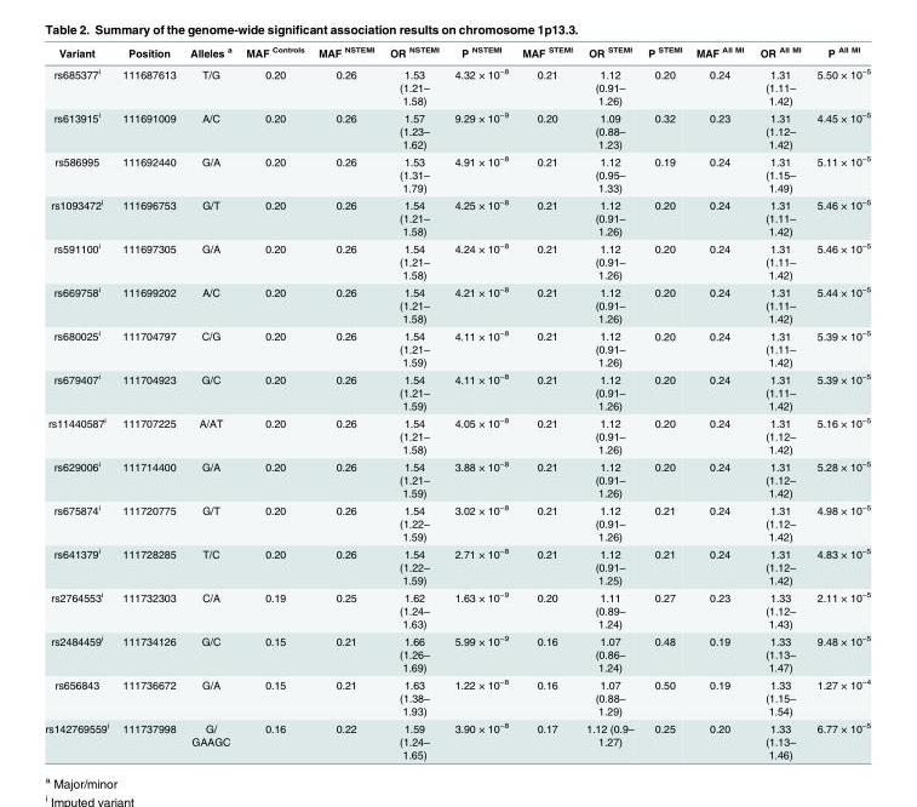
<table><thead><tr><td>Variant</td><td>Position</td><td>Alleles <sup>a</sup></td><td>MAF <sup>Controls</sup></td><td>MAF <sup>NSTEMI</sup></td><td>OR <sup>NSTEMI</sup></td><td>P <sup>NSTEMI</sup></td><td>MAF <sup>STEMI</sup></td><td>OR <sup>STEMI</sup></td><td>P <sup>STEMI</sup></td><td>MAF <sup>All MI</sup></td><td>OR <sup>All MI</sup></td><td>P <sup>All MI</sup></td></tr></thead><tbody><tr><td>rs685377<sup>i</sup></td><td>111687613</td><td>T/G</td><td>0.20</td><td>0.26</td><td>1.53 (1.21– 1.58)</td><td>4.32 × 10<sup>−8</sup></td><td>0.21</td><td>1.12 (0.91– 1.26)</td><td>0.20</td><td>0.24</td><td>1.31 (1.11– 1.42)</td><td>5.50 × 10<sup>−5</sup></td></tr><tr><td>rs613915<sup>i</sup></td><td>111691009</td><td>A/C</td><td>0.20</td><td>0.26</td><td>1.57 (1.23– 1.62)</td><td>9.29 × 10<sup>−9</sup></td><td>0.20</td><td>1.09 (0.88– 1.23)</td><td>0.32</td><td>0.23</td><td>1.31 (1.12– 1.42)</td><td>4.45 × 10<sup>−5</sup></td></tr><tr><td>rs586995</td><td>111692440</td><td>G/A</td><td>0.20</td><td>0.26</td><td>1.53 (1.31– 1.79)</td><td>4.91 × 10<sup>−8</sup></td><td>0.21</td><td>1.12 (0.95– 1.33)</td><td>0.19</td><td>0.24</td><td>1.31 (1.15– 1.49)</td><td>5.11 × 10<sup>−5</sup></td></tr><tr><td>rs1093472<sup>i</sup></td><td>111696753</td><td>G/T</td><td>0.20</td><td>0.26</td><td>1.54 (1.21– 1.58)</td><td>4.25 × 10<sup>−8</sup></td><td>0.21</td><td>1.12 (0.91– 1.26)</td><td>0.20</td><td>0.24</td><td>1.31 (1.11– 1.42)</td><td>5.46 × 10<sup>−5</sup></td></tr><tr><td>rs591100<sup>i</sup></td><td>111697305</td><td>G/A</td><td>0.20</td><td>0.26</td><td>1.54 (1.21– 1.58)</td><td>4.24 × 10<sup>−8</sup></td><td>0.21</td><td>1.12 (0.91– 1.26)</td><td>0.20</td><td>0.24</td><td>1.31 (1.11– 1.42)</td><td>5.46 × 10<sup>−5</sup></td></tr><tr><td>rs669758<sup>i</sup></td><td>111699202</td><td>A/C</td><td>0.20</td><td>0.26</td><td>1.54 (1.21– 1.58)</td><td>4.21 × 10<sup>−8</sup></td><td>0.21</td><td>1.12 (0.91– 1.26)</td><td>0.20</td><td>0.24</td><td>1.31 (1.11– 1.42)</td><td>5.44 × 10<sup>−5</sup></td></tr><tr><td>rs680025<sup>i</sup></td><td>111704797</td><td>C/G</td><td>0.20</td><td>0.26</td><td>1.54 (1.21– 1.59)</td><td>4.11 × 10<sup>−8</sup></td><td>0.21</td><td>1.12 (0.91– 1.26)</td><td>0.20</td><td>0.24</td><td>1.31 (1.11– 1.42)</td><td>5.39 × 10<sup>−5</sup></td></tr><tr><td>rs679407<sup>i</sup></td><td>111704923</td><td>G/C</td><td>0.20</td><td>0.26</td><td>1.54 (1.21– 1.59)</td><td>4.11 × 10<sup>−8</sup></td><td>0.21</td><td>1.12 (0.91– 1.26)</td><td>0.20</td><td>0.24</td><td>1.31 (1.11– 1.42)</td><td>5.39 × 10<sup>−5</sup></td></tr><tr><td>rs11440587<sup>i</sup></td><td>111707225</td><td>A/AT</td><td>0.20</td><td>0.26</td><td>1.54 (1.21– 1.58)</td><td>4.05 × 10<sup>−8</sup></td><td>0.21</td><td>1.12 (0.91– 1.26)</td><td>0.20</td><td>0.24</td><td>1.31 (1.12– 1.42)</td><td>5.16 × 10<sup>−5</sup></td></tr><tr><td>rs629006<sup>i</sup></td><td>111714400</td><td>G/A</td><td>0.20</td><td>0.26</td><td>1.54 (1.21– 1.59)</td><td>3.88 × 10<sup>−8</sup></td><td>0.21</td><td>1.12 (0.91– 1.26)</td><td>0.20</td><td>0.24</td><td>1.31 (1.12– 1.42)</td><td>5.28 × 10<sup>−5</sup></td></tr><tr><td>rs675874<sup>i</sup></td><td>111720775</td><td>G/T</td><td>0.20</td><td>0.26</td><td>1.54 (1.22– 1.59)</td><td>3.02 × 10<sup>−8</sup></td><td>0.21</td><td>1.12 (0.91– 1.26)</td><td>0.21</td><td>0.24</td><td>1.31 (1.12– 1.42)</td><td>4.98 × 10<sup>−5</sup></td></tr><tr><td>rs641379<sup>i</sup></td><td>111728285</td><td>T/C</td><td>0.20</td><td>0.26</td><td>1.54 (1.22– 1.59)</td><td>2.71 × 10<sup>−8</sup></td><td>0.21</td><td>1.12 (0.91– 1.25)</td><td>0.21</td><td>0.24</td><td>1.31 (1.12– 1.42)</td><td>4.83 × 10<sup>−5</sup></td></tr><tr><td>rs2764553<sup>i</sup></td><td>111732303</td><td>C/A</td><td>0.19</td><td>0.25</td><td>1.62 (1.24– 1.63)</td><td>1.63 × 10<sup>−9</sup></td><td>0.20</td><td>1.11 (0.89– 1.24)</td><td>0.27</td><td>0.23</td><td>1.33 (1.12– 1.43)</td><td>2.11 × 10<sup>−5</sup></td></tr><tr><td>rs2484459<sup>i</sup></td><td>111734126</td><td>G/C</td><td>0.15</td><td>0.21</td><td>1.66 (1.26– 1.69)</td><td>5.99 × 10<sup>−9</sup></td><td>0.16</td><td>1.07 (0.86– 1.24)</td><td>0.48</td><td>0.19</td><td>1.33 (1.13– 1.47)</td><td>9.48 × 10<sup>−5</sup></td></tr><tr><td>rs656843</td><td>111736672</td><td>G/A</td><td>0.15</td><td>0.21</td><td>1.63 (1.38– 1.93)</td><td>1.22 × 10<sup>−8</sup></td><td>0.16</td><td>1.07 (0.88– 1.29)</td><td>0.50</td><td>0.19</td><td>1.33 (1.15– 1.54)</td><td>1.27 × 10<sup>−4</sup></td></tr><tr><td>rs142769559<sup>i</sup></td><td>111737998</td><td>G/ GAAGC</td><td>0.16</td><td>0.22</td><td>1.59 (1.24– 1.65)</td><td>3.90 × 10<sup>−8</sup></td><td>0.17</td><td>1.12 (0.9– 1.27)</td><td>0.25</td><td>0.20</td><td>1.33 (1.13– 1.46)</td><td>6.77 × 10<sup>−5</sup></td></tr></tbody></table>